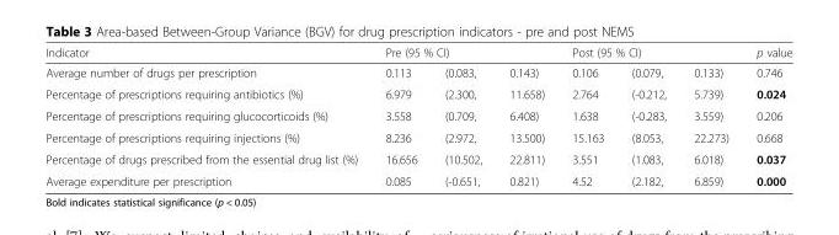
<table><thead><tr><td rowspan="2">Indicator Average number of drugs per prescription</td><td colspan="3">Pre (95 % CI)</td><td colspan="3">Post (95 % CI)</td><td rowspan="2">p value 0.746</td></tr><tr><td>0.113</td><td>(0.083,</td><td>0.143)</td><td>0.106</td><td>(0.079,</td><td>0.133)</td></tr></thead><tbody><tr><td>Percentage of prescriptions requiring antibiotics (%)</td><td>6.979</td><td>(2.300,</td><td>11.658)</td><td>2.764</td><td>(-0.212,</td><td>5.739)</td><td>0.024</td></tr><tr><td>Percentage of prescriptions requiring glucocorticoids (%)</td><td>3.558</td><td>(0.709,</td><td>6.408)</td><td>1.638</td><td>(-0.283,</td><td>3.559)</td><td>0.206</td></tr><tr><td>Percentage of prescriptions requiring injections (%)</td><td>8.236</td><td>(2.972,</td><td>13.500)</td><td>15.163</td><td>(8.053,</td><td>22.273)</td><td>0.668</td></tr><tr><td>Percentage of drugs prescribed from the essential drug list (%)</td><td>16.656</td><td>(10.502,</td><td>22.811)</td><td>3.551</td><td>(1.083,</td><td>6.018)</td><td>0.037</td></tr><tr><td>Average expenditure per prescription</td><td>0.085</td><td>(-0.651,</td><td>0.821)</td><td>4.52</td><td>(2.182,</td><td>6.859)</td><td>0.000</td></tr></tbody></table>